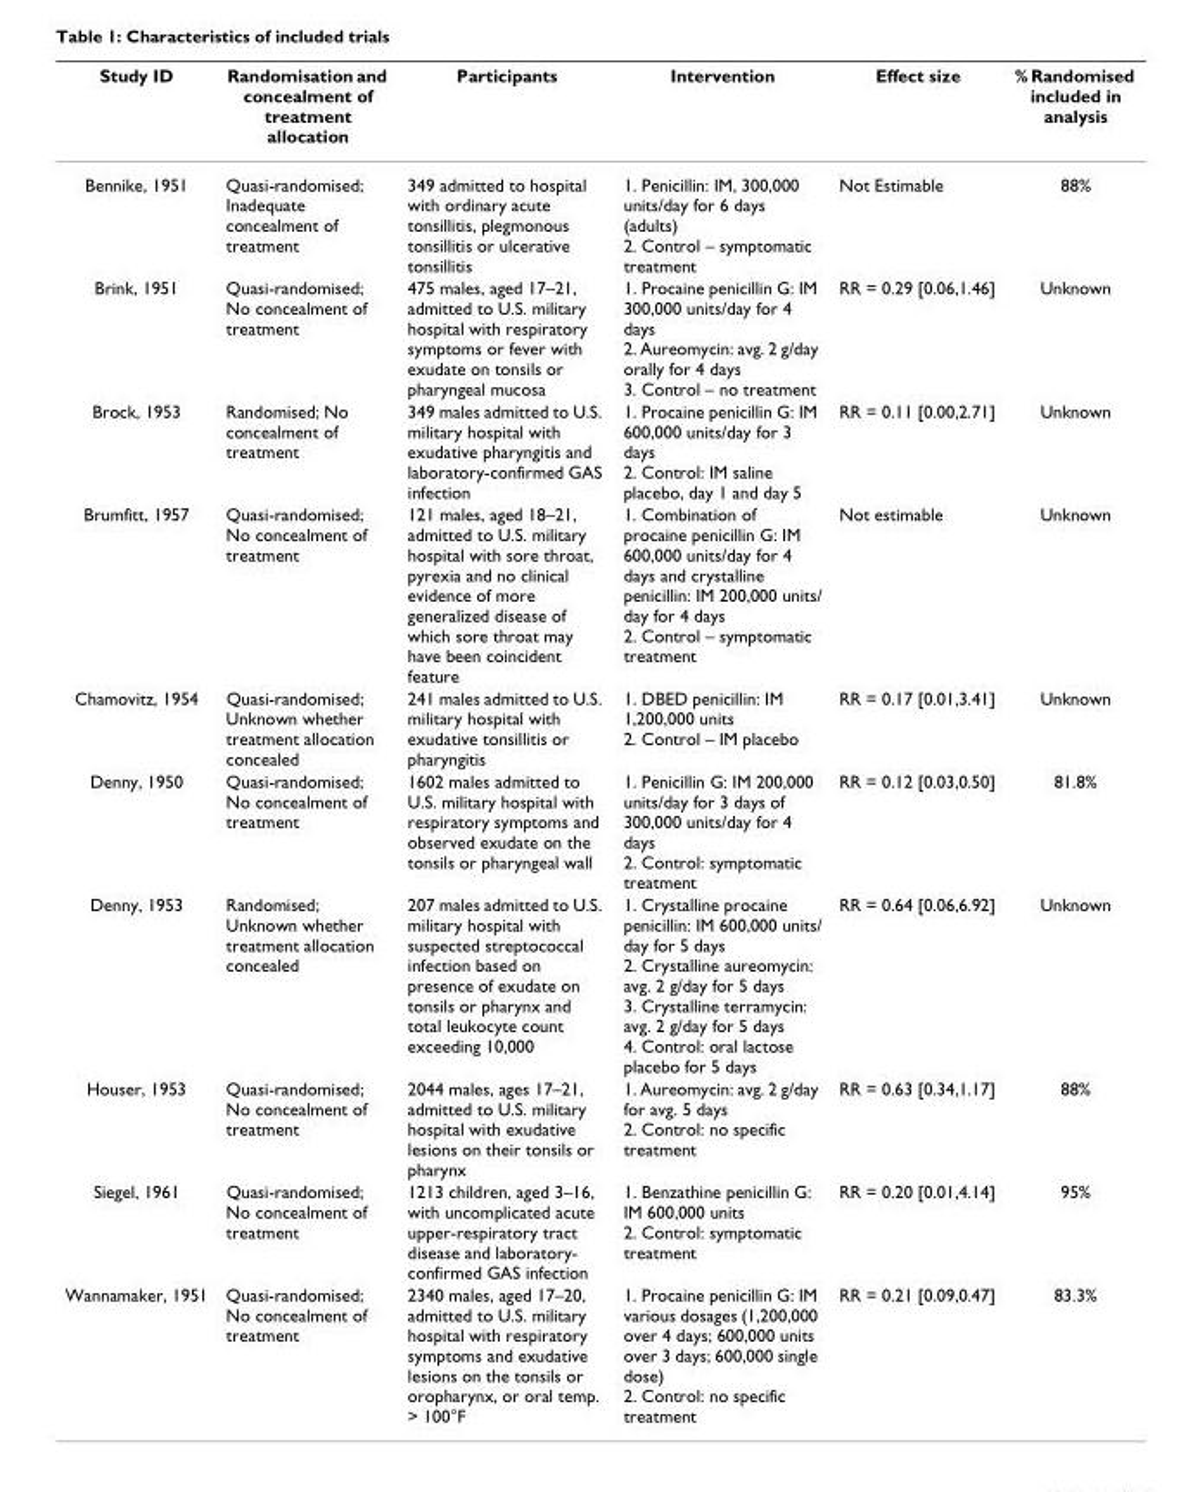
<table><thead><tr><td>Study ID</td><td>Randomisation and concealment of treatment allocation</td><td>Participants</td><td>Intervention</td><td>Effect size</td><td>% Randomised included in analysis</td></tr></thead><tbody><tr><td>Bennike, 1951</td><td>Quasi-randomised; Inadequate concealment of treatment</td><td>349 admitted to hospital with ordinary acute tonsillitis, plegmonous tonsillitis or ulcerative tonsillitis</td><td>1. Penicillin: IM, 300,000 units/day for 6 days (adults) 2. Control – symptomatic treatment</td><td>Not Estimable</td><td>88%</td></tr><tr><td>Brink, 1951</td><td>Quasi-randomised; No concealment of treatment</td><td>475 males, aged 17–21, admitted to U.S. military hospital with respiratory symptoms or fever with exudate on tonsils or pharyngeal mucosa</td><td>1. Procaine penicillin G: IM 300,000 units/day for 4 days 2. Aureomycin: avg. 2 g/day orally for 4 days 3. Control – no treatment</td><td>RR = 0.29 [0.06,1.46]</td><td>Unknown</td></tr><tr><td>Brock, 1953</td><td>Randomised; No concealment of treatment</td><td>349 males admitted to U.S. military hospital with exudative pharyngitis and laboratory-confirmed GAS infection</td><td>1. Procaine penicillin G: IM 600,000 units/day for 3 days 2. Control: IM saline placebo, day 1 and day 5</td><td>RR = 0.11 [0.00,2.71]</td><td>Unknown</td></tr><tr><td>Brumfitt, 1957</td><td>Quasi-randomised; No concealment of treatment</td><td>121 males, aged 18–21, admitted to U.S. military hospital with sore throat, pyrexia and no clinical evidence of more generalized disease of which sore throat may have been coincident feature</td><td>1. Combination of procaine penicillin G: IM 600,000 units/day for 4 days and crystalline penicillin: IM 200,000 units/ day for 4 days 2. Control – symptomatic treatment</td><td>Not estimable</td><td>Unknown</td></tr><tr><td>Chamovitz, 1954</td><td>Quasi-randomised; Unknown whether treatment allocation concealed</td><td>241 males admitted to U.S. military hospital with exudative tonsillitis or pharyngitis</td><td>1. DBED penicillin: IM 1,200,000 units 2. Control – IM placebo</td><td>RR = 0.17 [0.01,3.41]</td><td>Unknown</td></tr><tr><td>Denny, 1950</td><td>Quasi-randomised; No concealment of treatment</td><td>1602 males admitted to U.S. military hospital with respiratory symptoms and observed exudate on the tonsils or pharyngeal wall</td><td>1. Penicillin G: IM 200,000 units/day for 3 days of 300,000 units/day for 4 days 2. Control: symptomatic treatment</td><td>RR = 0.12 [0.03,0.50]</td><td>81.8%</td></tr><tr><td>Denny, 1953</td><td>Randomised; Unknown whether treatment allocation concealed</td><td>207 males admitted to U.S. military hospital with suspected streptococcal infection based on presence of exudate on tonsils or pharynx and total leukocyte count exceeding 10,000</td><td>1. Crystalline procaine penicillin: IM 600,000 units/ day for 5 days 2. Crystalline aureomycin: avg. 2 g/day for 5 days 3. Crystalline terramycin: avg. 2 g/day for 5 days 4. Control: oral lactose placebo for 5 days</td><td>RR = 0.64 [0.06,6.92]</td><td>Unknown</td></tr><tr><td>Houser, 1953</td><td>Quasi-randomised; No concealment of treatment</td><td>2044 males, ages 17–21, admitted to U.S. military hospital with exudative lesions on their tonsils or pharynx</td><td>1. Aureomycin: avg. 2 g/day for avg. 5 days 2. Control: no specific treatment</td><td>RR = 0.63 [0.34,1.17]</td><td>88%</td></tr><tr><td>Siegel, 1961</td><td>Quasi-randomised; No concealment of treatment</td><td>1213 children, aged 3–16, with uncomplicated acute upper-respiratory tract disease and laboratory- confirmed GAS infection</td><td>1. Benzathine penicillin G: IM 600,000 units 2. Control: symptomatic treatment</td><td>RR = 0.20 [0.01,4.14]</td><td>95%</td></tr><tr><td>Wannamaker, 1951</td><td>Quasi-randomised; No concealment of treatment</td><td>2340 males, aged 17–20, admitted to U.S. military hospital with respiratory symptoms and exudative lesions on the tonsils or oropharynx, or oral temp. &gt; 100°F</td><td>1. Procaine penicillin G: IM various dosages (1,200,000 over 4 days; 600,000 units over 3 days; 600,000 single dose) 2. Control: no specific treatment</td><td>RR = 0.21 [0.09,0.47]</td><td>83.3%</td></tr></tbody></table>